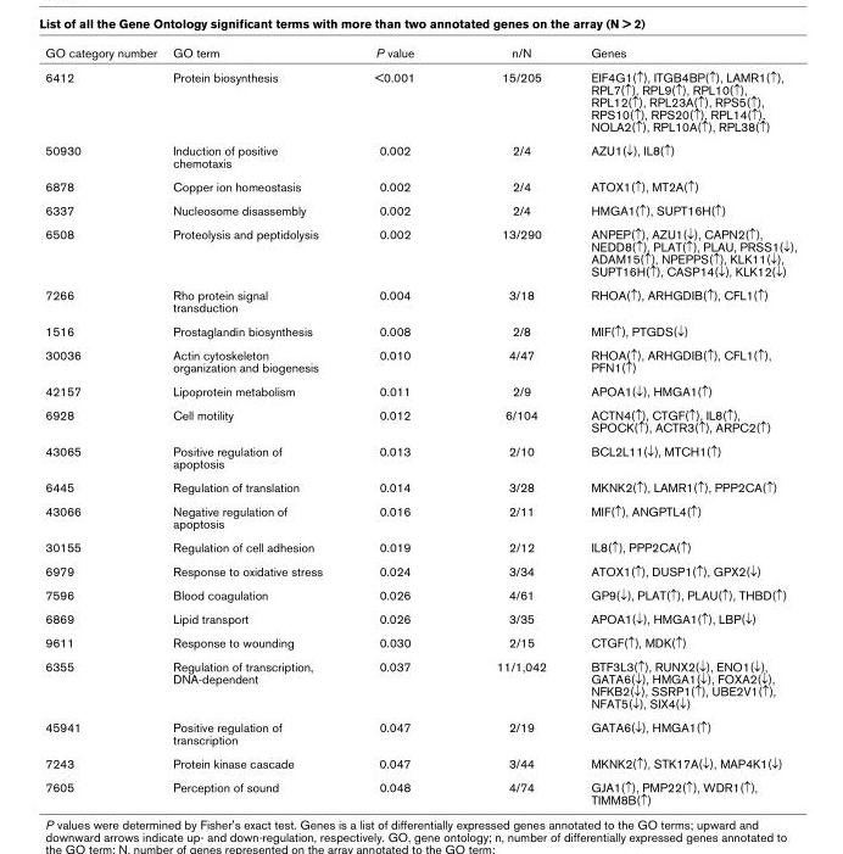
<table><thead><tr><td>GO category number</td><td>GO term</td><td>P value</td><td>n/N</td><td>Genes</td></tr></thead><tbody><tr><td>6412</td><td>Protein biosynthesis</td><td>&lt;0.001</td><td>15/205</td><td>EIF4G1(↑), ITGB4BP(↑), LAMR1(↑), RPL7(↑), RPL9(↑), RPL10(↑), RPL12(↑), RPL23A(↑), RPS5(↑), RPS10(↑), RPS20(↑), RPL14(↑), NOLA2(↑), RPL10A(↑), RPL38(↑)</td></tr><tr><td>50930</td><td>Induction of positive chemotaxis</td><td>0.002</td><td>2/4</td><td>AZU1(↓), IL8(↑)</td></tr><tr><td>6878</td><td>Copper ion homeostasis</td><td>0.002</td><td>2/4</td><td>ATOX1(↑), MT2A(↑)</td></tr><tr><td>6337</td><td>Nucleosome disassembly</td><td>0.002</td><td>2/4</td><td>HMGA1(↑), SUPT16H(↑)</td></tr><tr><td>6508</td><td>Proteolysis and peptidolysis</td><td>0.002</td><td>13/290</td><td>ANPEP(↑), AZU1(↓), CAPN2(↑), NEDD8(↑), PLAT(↑), PLAU, PRSS1(↓), ADAM15(↑), NPEPPS(↑), KLK11(↓), SUPT16H(↑), CASP14(↓), KLK12(↓)</td></tr><tr><td>7266</td><td>Rho protein signal transduction</td><td>0.004</td><td>3/18</td><td>RHOA(↑), ARHGDIB(↑), CFL1(↑)</td></tr><tr><td>1516</td><td>Prostaglandin biosynthesis</td><td>0.008</td><td>2/8</td><td>MIF(↑), PTGDS(↓)</td></tr><tr><td>30036</td><td>Actin cytoskeleton organization and biogenesis</td><td>0.010</td><td>4/47</td><td>RHOA(↑), ARHGDIB(↑), CFL1(↑), PFN1(↑)</td></tr><tr><td>42157</td><td>Lipoprotein metabolism</td><td>0.011</td><td>2/9</td><td>APOA1(↓), HMGA1(↑)</td></tr><tr><td>6928</td><td>Cell motility</td><td>0.012</td><td>6/104</td><td>ACTN4(↑), CTGF(↑), IL8(↑), SPOCK(↑), ACTR3(↑), ARPC2(↑)</td></tr><tr><td>43065</td><td>Positive regulation of apoptosis</td><td>0.013</td><td>2/10</td><td>BCL2L11(↓), MTCH1(↑)</td></tr><tr><td>6445</td><td>Regulation of translation</td><td>0.014</td><td>3/28</td><td>MKNK2(↑), LAMR1(↑), PPP2CA(↑)</td></tr><tr><td>43066</td><td>Negative regulation of apoptosis</td><td>0.016</td><td>2/11</td><td>MIF(↑), ANGPTL4(↑)</td></tr><tr><td>30155</td><td>Regulation of cell adhesion</td><td>0.019</td><td>2/12</td><td>IL8(↑), PPP2CA(↑)</td></tr><tr><td>6979</td><td>Response to oxidative stress</td><td>0.024</td><td>3/34</td><td>ATOX1(↑), DUSP1(↑), GPX2(↓)</td></tr><tr><td>7596</td><td>Blood coagulation</td><td>0.026</td><td>4/61</td><td>GP9(↓), PLAT(↑), PLAU(↑), THBD(↑)</td></tr><tr><td>6869</td><td>Lipid transport</td><td>0.026</td><td>3/35</td><td>APOA1(↓), HMGA1(↑), LBP(↓)</td></tr><tr><td>9611</td><td>Response to wounding</td><td>0.030</td><td>2/15</td><td>CTGF(↑), MDK(↑)</td></tr><tr><td>6355</td><td>Regulation of transcription, DNA-dependent</td><td>0.037</td><td>11/1,042</td><td>BTF3L3(↑), RUNX2(↓), ENO1(↓), GATA6(↓), HMGA1(↓), FOXA2(↓), NFKB2(↓), SSRP1(↑), UBE2V1(↑), NFAT5(↓), SIX4(↓)</td></tr><tr><td>45941</td><td>Positive regulation of transcription</td><td>0.047</td><td>2/19</td><td>GATA6(↓), HMGA1(↑)</td></tr><tr><td>7243</td><td>Protein kinase cascade</td><td>0.047</td><td>3/44</td><td>MKNK2(↑), STK17A(↓), MAP4K1(↓)</td></tr><tr><td>7605</td><td>Perception of sound</td><td>0.048</td><td>4/74</td><td>GJA1(↑), PMP22(↑), WDR1(↑), TIMM8B(↑)</td></tr></tbody></table>